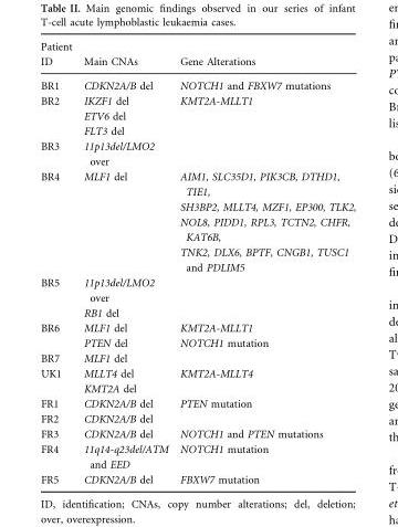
<table><thead><tr><td>Patient ID</td><td>Main CNAs</td><td>Gene Alterations</td></tr></thead><tbody><tr><td>BR1</td><td>CDKN2A/B del</td><td>NOTCH1 and FBXW7 mutations</td></tr><tr><td rowspan="3">BR2</td><td>IKZF1 del</td><td rowspan="3">KMT2A-MLLT1</td></tr><tr><td>ETV6 del</td></tr><tr><td>FLT3 del</td></tr><tr><td>BR3</td><td>11p13del/LMO2 over</td><td></td></tr><tr><td rowspan="4">BR4</td><td rowspan="4">MLF1 del</td><td>AIM1, SLC35D1, PIK3CB, DTHD1, TIE1,</td></tr><tr><td>SH3BP2, MLLT4, MZF1, EP300, TLK2,</td></tr><tr><td>NOL8, PIDD1, RPL3, TCTN2, CHFR, KAT6B,</td></tr><tr><td>TNK2, DLX6, BPTF, CNGB1, TUSC1 and PDLIM5</td></tr><tr><td rowspan="2">BR5</td><td>11p13del/LMO2 over</td><td></td></tr><tr><td>RB1 del</td><td></td></tr><tr><td rowspan="2">BR6</td><td>MLF1 del</td><td>KMT2A-MLLT1</td></tr><tr><td>PTEN del</td><td>NOTCH1 mutation</td></tr><tr><td>BR7</td><td>MLF1 del</td><td></td></tr><tr><td rowspan="2">UK1</td><td>MLLT4 del</td><td rowspan="2">KMT2A-MLLT4</td></tr><tr><td>KMT2A del</td></tr><tr><td>FR1</td><td>CDKN2A/B del</td><td>PTEN mutation</td></tr><tr><td>FR2</td><td>CDKN2A/B del</td><td></td></tr><tr><td>FR3</td><td>CDKN2A/B del</td><td>NOTCH1 and PTEN mutations</td></tr><tr><td>FR4</td><td>11q14-q23del/ATM and EED</td><td>NOTCH1 mutation</td></tr><tr><td>FR5</td><td>CDKN2A/B del</td><td>FBXW7 mutation</td></tr></tbody></table>